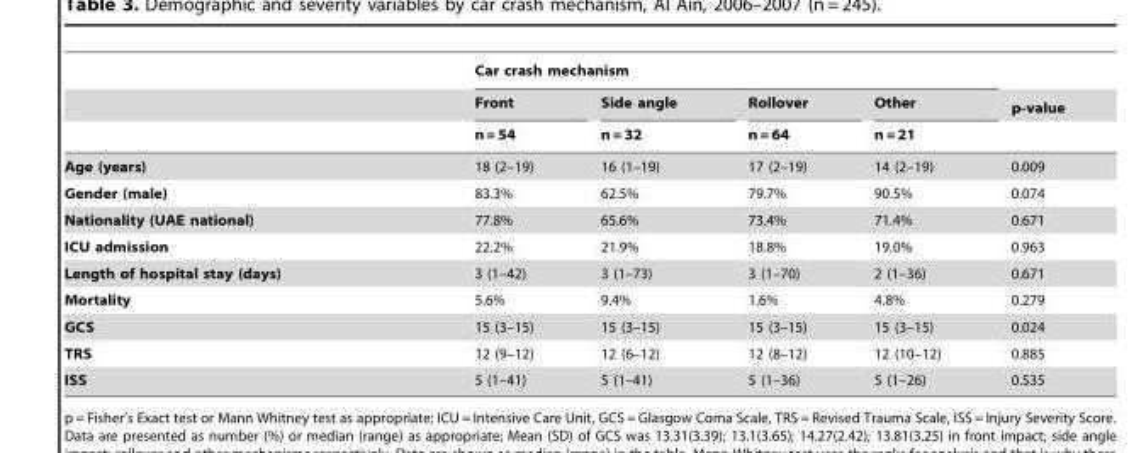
<table><thead><tr><td rowspan="3"></td><td colspan="4">Car crash mechanism</td><td rowspan="3">p-value</td></tr><tr><td rowspan="2">Front n = 54</td><td rowspan="2">Side angle n = 32</td><td rowspan="2">Rollover n = 64</td><td rowspan="2">Other n = 21</td></tr><tr></tr></thead><tbody><tr><td>Age (years)</td><td>18 (2–19)</td><td>16 (1–19)</td><td>17 (2–19)</td><td>14 (2–19)</td><td>0.009</td></tr><tr><td>Gender (male)</td><td>83.3%</td><td>62.5%</td><td>79.7%</td><td>90.5%</td><td>0.074</td></tr><tr><td>Nationality (UAE national)</td><td>77.8%</td><td>65.6%</td><td>73.4%</td><td>71.4%</td><td>0.671</td></tr><tr><td>ICU admission</td><td>22.2%</td><td>21.9%</td><td>18.8%</td><td>19.0%</td><td>0.963</td></tr><tr><td>Length of hospital stay (days)</td><td>3 (1–42)</td><td>3 (1–73)</td><td>3 (1–70)</td><td>2 (1–36)</td><td>0.671</td></tr><tr><td>Mortality</td><td>5.6%</td><td>9.4%</td><td>1.6%</td><td>4.8%</td><td>0.279</td></tr><tr><td>GCS</td><td>15 (3–15)</td><td>15 (3–15)</td><td>15 (3–15)</td><td>15 (3–15)</td><td>0.024</td></tr><tr><td>TRS</td><td>12 (9–12)</td><td>12 (6–12)</td><td>12 (8–12)</td><td>12 (10–12)</td><td>0.885</td></tr><tr><td>ISS</td><td>5 (1–41)</td><td>5 (1–41)</td><td>5 (1–36)</td><td>5 (1–26)</td><td>0.535</td></tr></tbody></table>